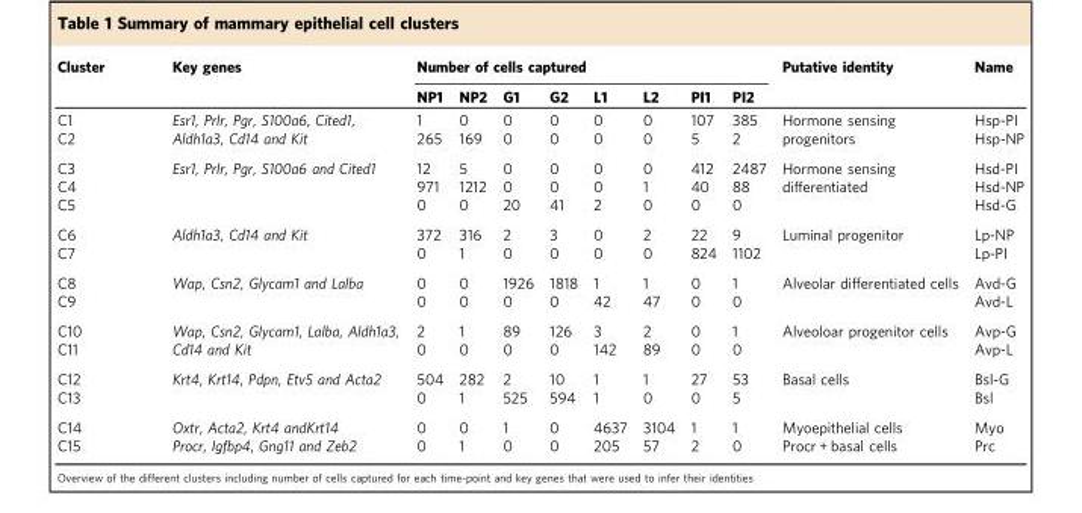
<table><thead><tr><td rowspan="2">Cluster</td><td rowspan="2">Key genes</td><td colspan="8">Number of cells captured</td><td rowspan="2">Putative identity</td><td rowspan="2">Name</td></tr><tr><td>NP1</td><td>NP2</td><td>G1</td><td>G2</td><td>L1</td><td>L2</td><td>PI1</td><td>PI2</td></tr></thead><tbody><tr><td>C1</td><td rowspan="2">Esr1, Prlr, Pgr, S100a6, Cited1, Aldh1a3, Cd14 and Kit</td><td>1</td><td>0</td><td>0</td><td>0</td><td>0</td><td>0</td><td>107</td><td>385</td><td rowspan="2">Hormone sensing progenitors</td><td>Hsp-PI</td></tr><tr><td>C2</td><td>265</td><td>169</td><td>0</td><td>0</td><td>0</td><td>0</td><td>5</td><td>2</td><td>Hsp-NP</td></tr><tr><td>C3</td><td rowspan="3">Esr1, Prlr, Pgr, S100a6 and Cited1</td><td>12</td><td>5</td><td>0</td><td>0</td><td>0</td><td>0</td><td>412</td><td>2487</td><td rowspan="3">Hormone sensing differentiated</td><td>Hsd-PI</td></tr><tr><td>C4</td><td>971</td><td>1212</td><td>0</td><td>0</td><td>0</td><td>1</td><td>40</td><td>88</td><td>Hsd-NP</td></tr><tr><td>C5</td><td>0</td><td>0</td><td>20</td><td>41</td><td>2</td><td>0</td><td>0</td><td>0</td><td>Hsd-G</td></tr><tr><td>C6</td><td rowspan="2">Aldh1a3, Cd14 and Kit</td><td>372</td><td>316</td><td>2</td><td>3</td><td>0</td><td>2</td><td>22</td><td>9</td><td rowspan="2">Luminal progenitor</td><td>Lp-NP</td></tr><tr><td>C7</td><td>0</td><td>1</td><td>0</td><td>0</td><td>0</td><td>0</td><td>824</td><td>1102</td><td>Lp-PI</td></tr><tr><td>C8</td><td rowspan="2">Wap, Csn2, Glycam1 and Lalba</td><td>0</td><td>0</td><td>1926</td><td>1818</td><td>1</td><td>1</td><td>0</td><td>1</td><td rowspan="2">Alveolar differentiated cells</td><td>Avd-G</td></tr><tr><td>C9</td><td>0</td><td>0</td><td>0</td><td>0</td><td>42</td><td>47</td><td>0</td><td>0</td><td>Avd-L</td></tr><tr><td>C10</td><td rowspan="2">Wap, Csn2, Glycam1, Lalba, Aldh1a3, Cd14 and Kit</td><td>2</td><td>1</td><td>89</td><td>126</td><td>3</td><td>2</td><td>0</td><td>1</td><td rowspan="2">Alveoloar progenitor cells</td><td>Avp-G</td></tr><tr><td>C11</td><td>0</td><td>0</td><td>0</td><td>0</td><td>142</td><td>89</td><td>0</td><td>0</td><td>Avp-L</td></tr><tr><td>C12</td><td rowspan="2">Krt4, Krt14, Pdpn, Etv5 and Acta2</td><td>504</td><td>282</td><td>2</td><td>10</td><td>1</td><td>1</td><td>27</td><td>53</td><td rowspan="2">Basal cells</td><td>Bsl-G</td></tr><tr><td>C13</td><td>0</td><td>1</td><td>525</td><td>594</td><td>1</td><td>0</td><td>0</td><td>5</td><td>Bsl</td></tr><tr><td>C14</td><td>Oxtr, Acta2, Krt4 andKrt14</td><td>0</td><td>0</td><td>1</td><td>0</td><td>4637</td><td>3104</td><td>1</td><td>1</td><td>Myoepithelial cells</td><td>Myo</td></tr><tr><td>C15</td><td>Procr, Igfbp4, Gng11 and Zeb2</td><td>0</td><td>1</td><td>0</td><td>0</td><td>205</td><td>57</td><td>2</td><td>0</td><td>Procr + basal cells</td><td>Prc</td></tr></tbody></table>